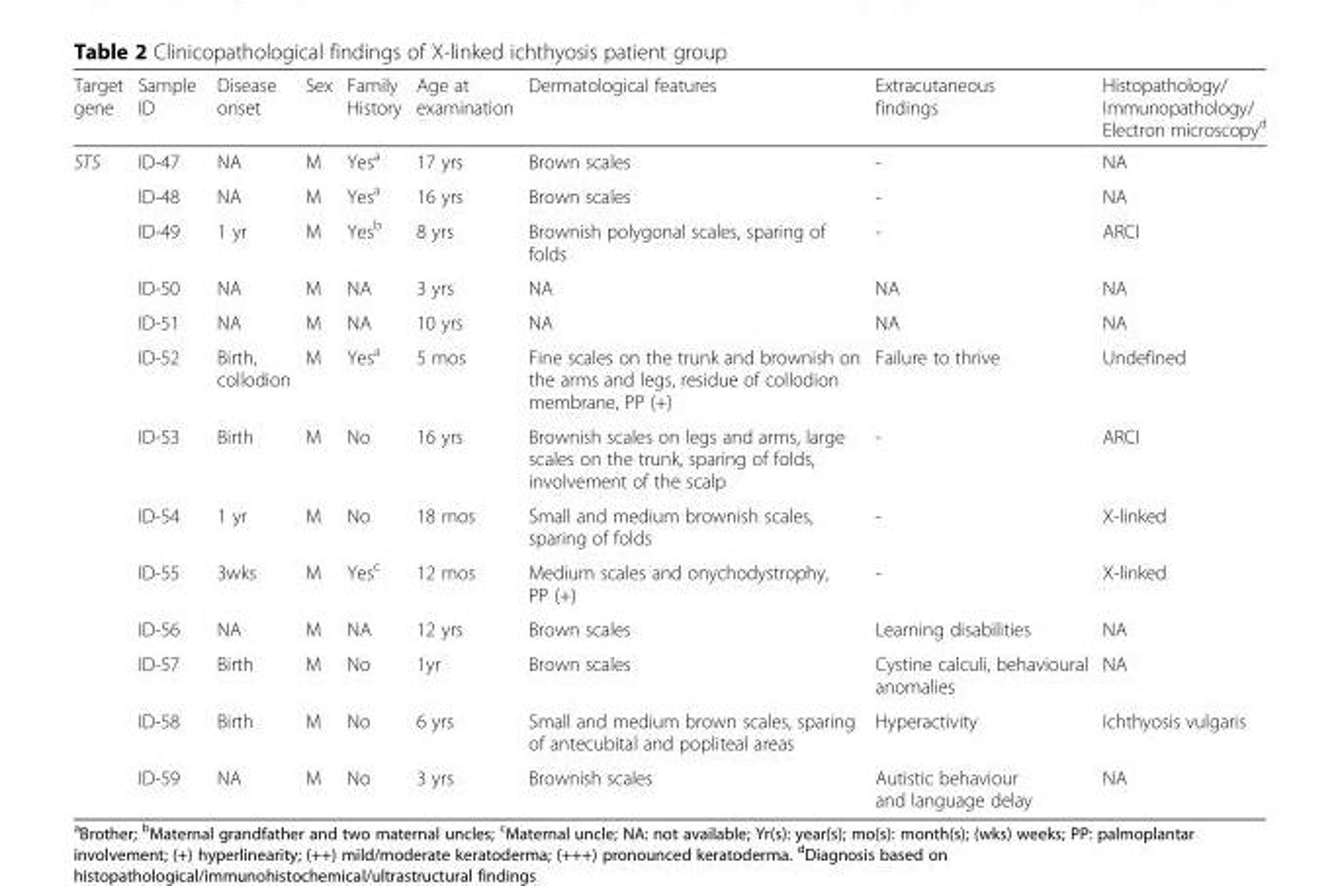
<table><thead><tr><td>Target gene</td><td>Sample ID</td><td>Disease onset</td><td>Sex</td><td>Family History</td><td>Age at examination</td><td>Dermatological features</td><td>Extracutaneous findings</td><td>Histopathology/ Immunopathology/ Electron microscopy<sup>d</sup></td></tr></thead><tbody><tr><td rowspan="13">STS</td><td>ID-47</td><td>NA</td><td>M</td><td>Yes<sup>a</sup></td><td>17 yrs</td><td>Brown scales</td><td>-</td><td>NA</td></tr><tr><td>ID-48</td><td>NA</td><td>M</td><td>Yes<sup>a</sup></td><td>16 yrs</td><td>Brown scales</td><td>-</td><td>NA</td></tr><tr><td>ID-49</td><td>1 yr</td><td>M</td><td>Yes<sup>b</sup></td><td>8 yrs</td><td>Brownish polygonal scales, sparing of folds</td><td>-</td><td>ARCI</td></tr><tr><td>ID-50</td><td>NA</td><td>M</td><td>NA</td><td>3 yrs</td><td>NA</td><td>NA</td><td>NA</td></tr><tr><td>ID-51</td><td>NA</td><td>M</td><td>NA</td><td>10 yrs</td><td>NA</td><td>NA</td><td>NA</td></tr><tr><td>ID-52</td><td>Birth, collodion</td><td>M</td><td>Yes<sup>a</sup></td><td>5 mos</td><td>Fine scales on the trunk and brownish on the arms and legs, residue of collodion membrane, PP (+)</td><td>Failure to thrive</td><td>Undefined</td></tr><tr><td>ID-53</td><td>Birth</td><td>M</td><td>No</td><td>16 yrs</td><td>Brownish scales on legs and arms, large scales on the trunk, sparing of folds, involvement of the scalp</td><td>-</td><td>ARCI</td></tr><tr><td>ID-54</td><td>1 yr</td><td>M</td><td>No</td><td>18 mos</td><td>Small and medium brownish scales, sparing of folds</td><td>-</td><td>X-linked</td></tr><tr><td>ID-55</td><td>3wks</td><td>M</td><td>Yes<sup>c</sup></td><td>12 mos</td><td>Medium scales and onychodystrophy, PP (+)</td><td>-</td><td>X-linked</td></tr><tr><td>ID-56</td><td>NA</td><td>M</td><td>NA</td><td>12 yrs</td><td>Brown scales</td><td>Learning disabilities</td><td>NA</td></tr><tr><td>ID-57</td><td>Birth</td><td>M</td><td>No</td><td>1yr</td><td>Brown scales</td><td>Cystine calculi, behavioural anomalies</td><td>NA</td></tr><tr><td>ID-58</td><td>Birth</td><td>M</td><td>No</td><td>6 yrs</td><td>Small and medium brown scales, sparing of antecubital and popliteal areas</td><td>Hyperactivity</td><td>Ichthyosis vulgaris</td></tr><tr><td>ID-59</td><td>NA</td><td>M</td><td>No</td><td>3 yrs</td><td>Brownish scales</td><td>Autistic behaviour and language delay</td><td>NA</td></tr></tbody></table>